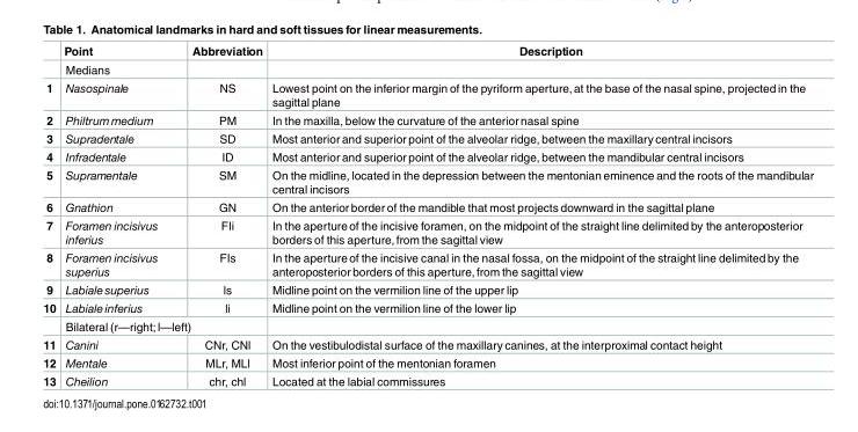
<table><thead><tr><td></td><td>Point</td><td>Abbreviation</td><td>Description</td></tr></thead><tbody><tr><td></td><td>Medians</td><td></td><td></td></tr><tr><td>1</td><td>Nasospinale</td><td>NS</td><td>Lowest point on the inferior margin of the pyriform aperture,at the base of the nasal spine, projected in the sagittal plane</td></tr><tr><td>2</td><td>Philtrum medium</td><td>PM</td><td>In the maxilla, below the curvature of the anterior nasal spine</td></tr><tr><td>3</td><td>Supradentale</td><td>SD</td><td>Most anterior and superior point of the alveolar ridge, between the maxillary central incisors</td></tr><tr><td>4</td><td>Infradentale</td><td>ID</td><td>Most anterior and superior point of the alveolar ridge, between the mandibular central incisors</td></tr><tr><td>5</td><td>Supramentale</td><td>SM</td><td>On the midline, located in the depression between the mentonian eminence and the roots of the mandibular central incisors</td></tr><tr><td>6</td><td>Gnathion</td><td>GN</td><td>On the anterior border of the mandible that most projects downward in the sagittal plane</td></tr><tr><td>7</td><td>Foramen incisivus inferius</td><td>FIi</td><td>In the apertureof the incisive foramen, on the midpoint of the straight line delimited by the anteroposterior borders of this aperture,from the sagittal view</td></tr><tr><td>8</td><td>Foramen incisivus superius</td><td>FIs</td><td>In the apertureof the incisive canal in the nasal fossa, on the midpoint of the straight line delimited by the anteroposterior borders of this aperture,from the sagittal view</td></tr><tr><td>9</td><td>Labiale superius</td><td>ls</td><td>Midline point on the vermilion line of the upper lip</td></tr><tr><td rowspan="2">10</td><td>Labiale inferius</td><td>li</td><td>Midline point on the vermilion line of the lower lip</td></tr><tr><td colspan="2">Bilateral (r—right;l—left)</td><td></td></tr><tr><td>11</td><td>Canini</td><td>CNr, CNl</td><td>On the vestibulodistal surface of the maxillary canines, at the interproximal contact height</td></tr><tr><td>12</td><td>Mentale</td><td>MLr, MLl</td><td>Most inferior point of the mentonian foramen</td></tr><tr><td>13</td><td>Cheilion</td><td>chr, chl</td><td>Located at the labial commissures</td></tr></tbody></table>